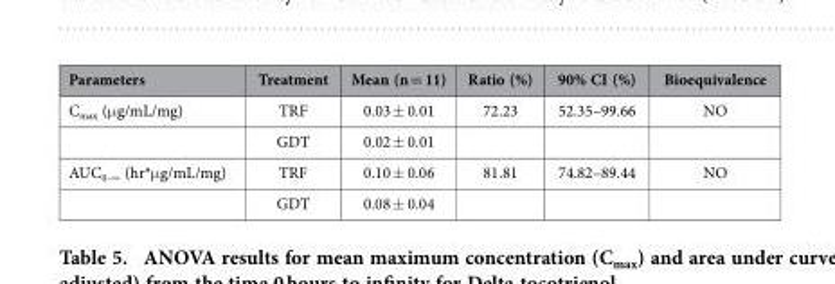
<table><thead><tr><td>Parameters</td><td>Treatment</td><td>Mean (n = 11)</td><td>Ratio (%)</td><td>90% CI (%)</td><td>Bioequivalence</td></tr></thead><tbody><tr><td rowspan="2">C<sub>max</sub> (μ g/mL/mg)</td><td>TRF</td><td>0.03 ± 0.01</td><td>72.23</td><td>52.35–99.66</td><td>NO</td></tr><tr><td>GDT</td><td>0.02 ± 0.01</td><td></td><td></td><td></td></tr><tr><td rowspan="2">AUC<sub>0–∞</sub> (hr*μ g/mL/mg)</td><td>TRF</td><td>0.10 ± 0.06</td><td>81.81</td><td>74.82–89.44</td><td>NO</td></tr><tr><td>GDT</td><td>0.08 ± 0.04</td><td></td><td></td><td></td></tr></tbody></table>